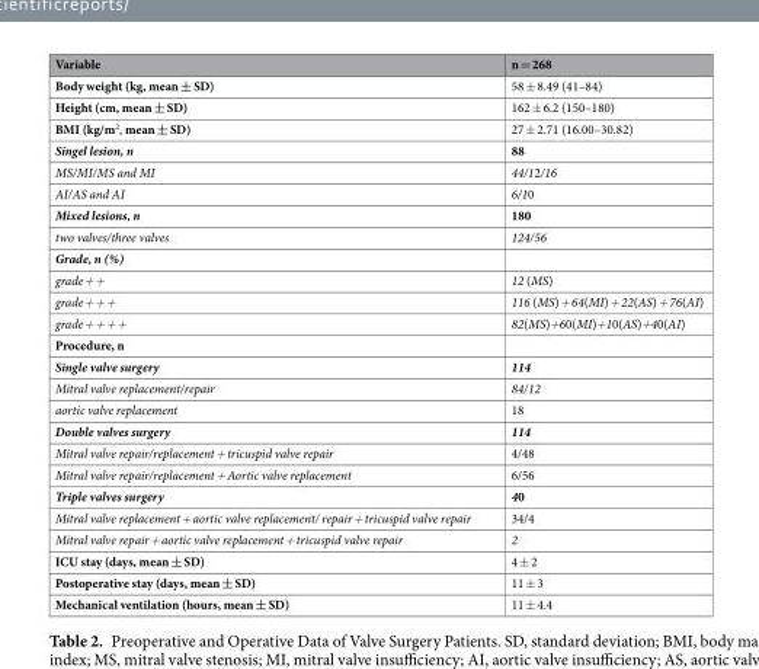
<table><thead><tr><td>Variable</td><td>n = 268</td></tr></thead><tbody><tr><td>Body weight (kg, mean ± SD)</td><td>58 ± 8.49 (41–84)</td></tr><tr><td>Height (cm, mean ± SD)</td><td>162 ± 6.2 (150–180)</td></tr><tr><td>BMI (kg/m<sup>2</sup>, mean ± SD)</td><td>27 ± 2.71 (16.00–30.82)</td></tr><tr><td>Singel lesion, n</td><td>88</td></tr><tr><td>MS/MI/MS and MI</td><td>44/12/16</td></tr><tr><td>AI/AS and AI</td><td>6/10</td></tr><tr><td>Mixed lesions, n</td><td>180</td></tr><tr><td>two valves/three valves</td><td>124/56</td></tr><tr><td colspan="2">Grade, n (%)</td></tr><tr><td>grade + +</td><td>12 (MS)</td></tr><tr><td>grade + + +</td><td>116 (MS) + 64(MI) + 22(AS) + 76(AI)</td></tr><tr><td>grade + + + +</td><td>82(MS)+60(MI)+10(AS)+40(AI)</td></tr><tr><td colspan="2">Procedure, n</td></tr><tr><td>Single valve surgery</td><td>114</td></tr><tr><td>Mitral valve replacement/repair</td><td>84/12</td></tr><tr><td>aortic valve replacement</td><td>18</td></tr><tr><td>Double valves surgery</td><td>114</td></tr><tr><td>Mitral valve repair/replacement + tricuspid valve repair</td><td>4/48</td></tr><tr><td>Mitral valve repair/replacement + Aortic valve replacement</td><td>6/56</td></tr><tr><td>Triple valves surgery</td><td>40</td></tr><tr><td>Mitral valve replacement + aortic valve replacement/ repair + tricuspid valve repair</td><td>34/4</td></tr><tr><td>Mitral valve repair + aortic valve replacement + tricuspid valve repair</td><td>2</td></tr><tr><td>ICU stay (days, mean ± SD)</td><td>4 ± 2</td></tr><tr><td>Postoperative stay (days, mean ± SD)</td><td>11 ± 3</td></tr><tr><td>Mechanical ventilation (hours, mean ± SD)</td><td>11 ± 4.4</td></tr></tbody></table>